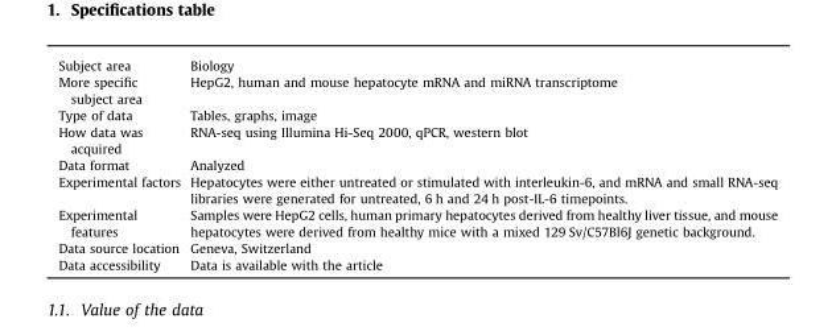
<table><tbody><tr><td>Subject area</td><td>Biology</td></tr><tr><td>More specific subject area</td><td>HepG2, human and mouse hepatocyte mRNA and miRNA transcriptome</td></tr><tr><td>Type of data</td><td>Tables, graphs, image</td></tr><tr><td>How data was acquired</td><td>RNA-seq using Illumina Hi-Seq 2000, qPCR, western blot</td></tr><tr><td>Data format</td><td>Analyzed</td></tr><tr><td>Experimental factors</td><td>Hepatocytes were either untreated or stimulated with interleukin-6, and mRNA and small RNA-seq libraries were generated for untreated, 6 h and 24 h post-IL-6 timepoints.</td></tr><tr><td>Experimental features</td><td>Samples were HepG2 cells, human primary hepatocytes derived from healthy liver tissue, and mouse hepatocytes were derived from healthy mice with a mixed 129 Sv/C57Bl6J genetic background.</td></tr><tr><td>Data source location</td><td>Geneva, Switzerland</td></tr><tr><td>Data accessibility</td><td>Data is available with the article</td></tr></tbody></table>